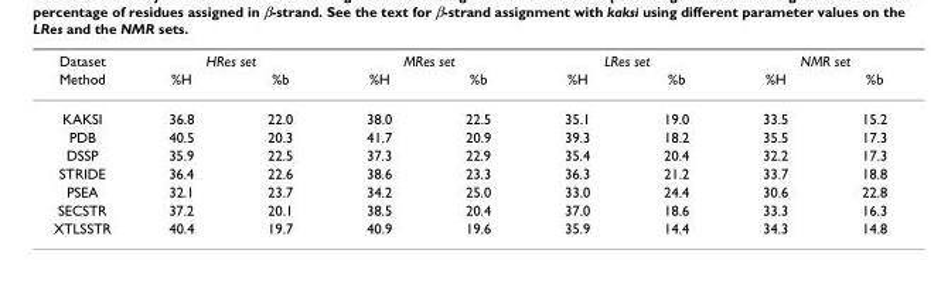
<table><thead><tr><td rowspan="2">Dataset Method</td><td colspan="2">HRes set</td><td colspan="2">MRes set</td><td colspan="2">LRes set</td><td colspan="2">NMR set</td></tr><tr><td>%H</td><td>%b</td><td>%H</td><td>%b</td><td>%H</td><td>%b</td><td>%H</td><td>%b</td></tr></thead><tbody><tr><td>KAKSI</td><td>36.8</td><td>22.0</td><td>38.0</td><td>22.5</td><td>35.1</td><td>19.0</td><td>33.5</td><td>15.2</td></tr><tr><td>PDB</td><td>40.5</td><td>20.3</td><td>41.7</td><td>20.9</td><td>39.3</td><td>18.2</td><td>35.5</td><td>17.3</td></tr><tr><td>DSSP</td><td>35.9</td><td>22.5</td><td>37.3</td><td>22.9</td><td>35.4</td><td>20.4</td><td>32.2</td><td>17.3</td></tr><tr><td>STRIDE</td><td>36.4</td><td>22.6</td><td>38.6</td><td>23.3</td><td>36.3</td><td>21.2</td><td>33.7</td><td>18.8</td></tr><tr><td>PSEA</td><td>32.1</td><td>23.7</td><td>34.2</td><td>25.0</td><td>33.0</td><td>24.4</td><td>30.6</td><td>22.8</td></tr><tr><td>SECSTR</td><td>37.2</td><td>20.1</td><td>38.5</td><td>20.4</td><td>37.0</td><td>18.6</td><td>33.3</td><td>16.3</td></tr><tr><td>XTLSSTR</td><td>40.4</td><td>19.7</td><td>40.9</td><td>19.6</td><td>35.9</td><td>14.4</td><td>34.3</td><td>14.8</td></tr></tbody></table>